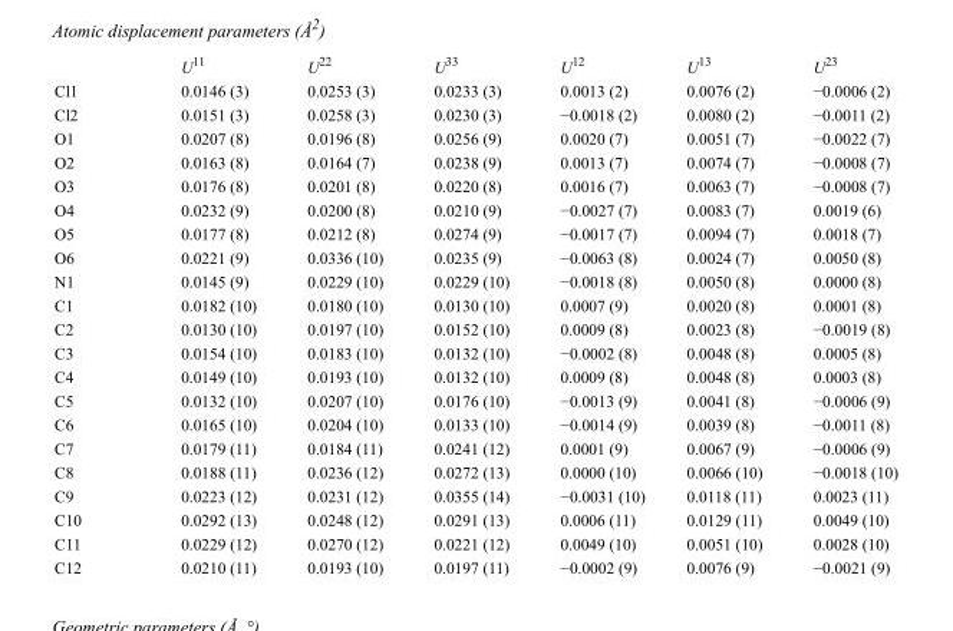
<table><thead><tr><td></td><td>U<sup>11</sup></td><td>U<sup>22</sup></td><td>U<sup>33</sup></td><td>U<sup>12</sup></td><td>U<sup>13</sup></td><td>U<sup>23</sup></td></tr></thead><tbody><tr><td>Cl1</td><td>0.0146 (3)</td><td>0.0253 (3)</td><td>0.0233 (3)</td><td>0.0013 (2)</td><td>0.0076 (2)</td><td>−0.0006 (2)</td></tr><tr><td>Cl2</td><td>0.0151 (3)</td><td>0.0258 (3)</td><td>0.0230 (3)</td><td>−0.0018 (2)</td><td>0.0080 (2)</td><td>−0.0011 (2)</td></tr><tr><td>O1</td><td>0.0207 (8)</td><td>0.0196 (8)</td><td>0.0256 (9)</td><td>0.0020 (7)</td><td>0.0051 (7)</td><td>−0.0022 (7)</td></tr><tr><td>O2</td><td>0.0163 (8)</td><td>0.0164 (7)</td><td>0.0238 (9)</td><td>0.0013 (7)</td><td>0.0074 (7)</td><td>−0.0008 (7)</td></tr><tr><td>O3</td><td>0.0176 (8)</td><td>0.0201 (8)</td><td>0.0220 (8)</td><td>0.0016 (7)</td><td>0.0063 (7)</td><td>−0.0008 (7)</td></tr><tr><td>O4</td><td>0.0232 (9)</td><td>0.0200 (8)</td><td>0.0210 (9)</td><td>−0.0027 (7)</td><td>0.0083 (7)</td><td>0.0019 (6)</td></tr><tr><td>O5</td><td>0.0177 (8)</td><td>0.0212 (8)</td><td>0.0274 (9)</td><td>−0.0017 (7)</td><td>0.0094 (7)</td><td>0.0018 (7)</td></tr><tr><td>O6</td><td>0.0221 (9)</td><td>0.0336 (10)</td><td>0.0235 (9)</td><td>−0.0063 (8)</td><td>0.0024 (7)</td><td>0.0050 (8)</td></tr><tr><td>N1</td><td>0.0145 (9)</td><td>0.0229 (10)</td><td>0.0229 (10)</td><td>−0.0018 (8)</td><td>0.0050 (8)</td><td>0.0000 (8)</td></tr><tr><td>C1</td><td>0.0182 (10)</td><td>0.0180 (10)</td><td>0.0130 (10)</td><td>0.0007 (9)</td><td>0.0020 (8)</td><td>0.0001 (8)</td></tr><tr><td>C2</td><td>0.0130 (10)</td><td>0.0197 (10)</td><td>0.0152 (10)</td><td>0.0009 (8)</td><td>0.0023 (8)</td><td>−0.0019 (8)</td></tr><tr><td>C3</td><td>0.0154 (10)</td><td>0.0183 (10)</td><td>0.0132 (10)</td><td>−0.0002 (8)</td><td>0.0048 (8)</td><td>0.0005 (8)</td></tr><tr><td>C4</td><td>0.0149 (10)</td><td>0.0193 (10)</td><td>0.0132 (10)</td><td>0.0009 (8)</td><td>0.0048 (8)</td><td>0.0003 (8)</td></tr><tr><td>C5</td><td>0.0132 (10)</td><td>0.0207 (10)</td><td>0.0176 (10)</td><td>−0.0013 (9)</td><td>0.0041 (8)</td><td>−0.0006 (9)</td></tr><tr><td>C6</td><td>0.0165 (10)</td><td>0.0204 (10)</td><td>0.0133 (10)</td><td>−0.0014 (9)</td><td>0.0039 (8)</td><td>−0.0011 (8)</td></tr><tr><td>C7</td><td>0.0179 (11)</td><td>0.0184 (11)</td><td>0.0241 (12)</td><td>0.0001 (9)</td><td>0.0067 (9)</td><td>−0.0006 (9)</td></tr><tr><td>C8</td><td>0.0188 (11)</td><td>0.0236 (12)</td><td>0.0272 (13)</td><td>0.0000 (10)</td><td>0.0066 (10)</td><td>−0.0018 (10)</td></tr><tr><td>C9</td><td>0.0223 (12)</td><td>0.0231 (12)</td><td>0.0355 (14)</td><td>−0.0031 (10)</td><td>0.0118 (11)</td><td>0.0023 (11)</td></tr><tr><td>C10</td><td>0.0292 (13)</td><td>0.0248 (12)</td><td>0.0291 (13)</td><td>0.0006 (11)</td><td>0.0129 (11)</td><td>0.0049 (10)</td></tr><tr><td>C11</td><td>0.0229 (12)</td><td>0.0270 (12)</td><td>0.0221 (12)</td><td>0.0049 (10)</td><td>0.0051 (10)</td><td>0.0028 (10)</td></tr><tr><td>C12</td><td>0.0210 (11)</td><td>0.0193 (10)</td><td>0.0197 (11)</td><td>−0.0002 (9)</td><td>0.0076 (9)</td><td>−0.0021 (9)</td></tr></tbody></table>